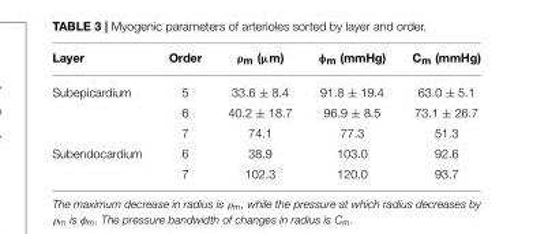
<table><thead><tr><td>Layer</td><td>Order</td><td>ρ<sub>m</sub> (µm)</td><td>φ<sub>m</sub> (mmHg)</td><td>C<sub>m</sub> (mmHg)</td></tr></thead><tbody><tr><td rowspan="3">Subepicardium</td><td>5</td><td>33.6 ± 8.4</td><td>91.8 ± 19.4</td><td>63.0 ± 5.1</td></tr><tr><td>6</td><td>40.2 ± 18.7</td><td>96.9 ± 8.5</td><td>73.1 ± 26.7</td></tr><tr><td>7</td><td>74.1</td><td>77.3</td><td>51.3</td></tr><tr><td rowspan="2">Subendocardium</td><td>6</td><td>38.9</td><td>103.0</td><td>92.6</td></tr><tr><td>7</td><td>102.3</td><td>120.0</td><td>93.7</td></tr></tbody></table>